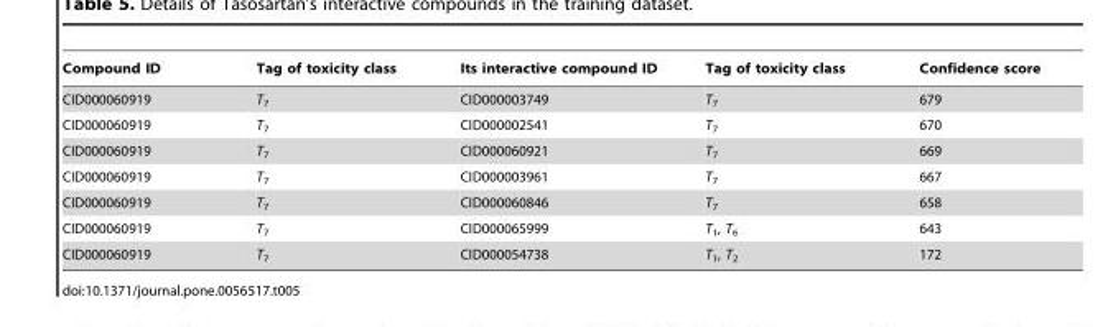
<table><thead><tr><td>Compound ID</td><td>Tag of toxicity class</td><td>Its interactive compound ID</td><td>Tag of toxicity class</td><td>Confidence score</td></tr></thead><tbody><tr><td>CID000060919</td><td>T<sub>7</sub></td><td>CID000003749</td><td>T<sub>7</sub></td><td>679</td></tr><tr><td>CID000060919</td><td>T<sub>7</sub></td><td>CID000002541</td><td>T<sub>7</sub></td><td>670</td></tr><tr><td>CID000060919</td><td>T<sub>7</sub></td><td>CID000060921</td><td>T<sub>7</sub></td><td>669</td></tr><tr><td>CID000060919</td><td>T<sub>7</sub></td><td>CID000003961</td><td>T<sub>7</sub></td><td>667</td></tr><tr><td>CID000060919</td><td>T<sub>7</sub></td><td>CID000060846</td><td>T<sub>7</sub></td><td>658</td></tr><tr><td>CID000060919</td><td>T<sub>7</sub></td><td>CID000065999</td><td>T<sub>1</sub>, T<sub>6</sub></td><td>643</td></tr><tr><td>CID000060919</td><td>T<sub>7</sub></td><td>CID000054738</td><td>T<sub>1</sub>, T<sub>2</sub></td><td>172</td></tr></tbody></table>